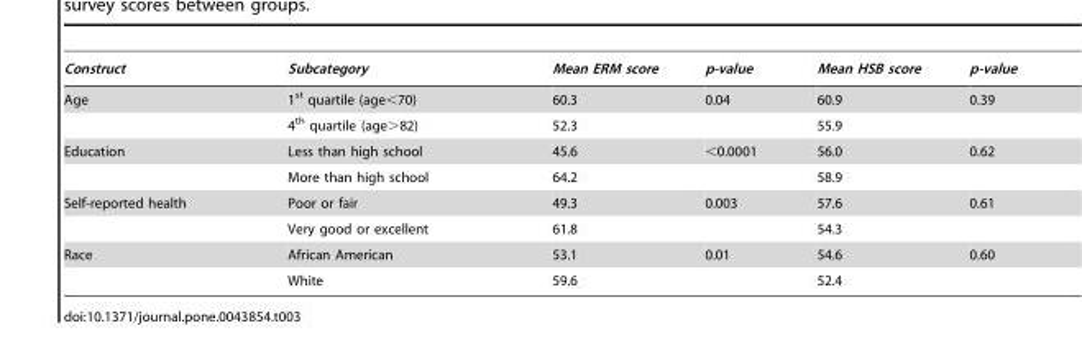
<table><thead><tr><td>Construct</td><td>Subcategory</td><td>Mean ERM score</td><td>p-value</td><td>Mean HSB score</td><td>p-value</td></tr></thead><tbody><tr><td rowspan="2">Age</td><td>1<sup>st</sup> quartile (age&lt;70)</td><td>60.3</td><td>0.04</td><td>60.9</td><td>0.39</td></tr><tr><td>4<sup>th</sup> quartile (age&gt;82)</td><td>52.3</td><td></td><td>55.9</td><td></td></tr><tr><td rowspan="2">Education</td><td>Less than high school</td><td>45.6</td><td>&lt;0.0001</td><td>56.0</td><td>0.62</td></tr><tr><td>More than high school</td><td>64.2</td><td></td><td>58.9</td><td></td></tr><tr><td rowspan="2">Self-reported health</td><td>Poor or fair</td><td>49.3</td><td>0.003</td><td>57.6</td><td>0.61</td></tr><tr><td>Very good or excellent</td><td>61.8</td><td></td><td>54.3</td><td></td></tr><tr><td rowspan="2">Race</td><td>African American</td><td>53.1</td><td>0.01</td><td>54.6</td><td>0.60</td></tr><tr><td>White</td><td>59.6</td><td></td><td>52.4</td><td></td></tr></tbody></table>